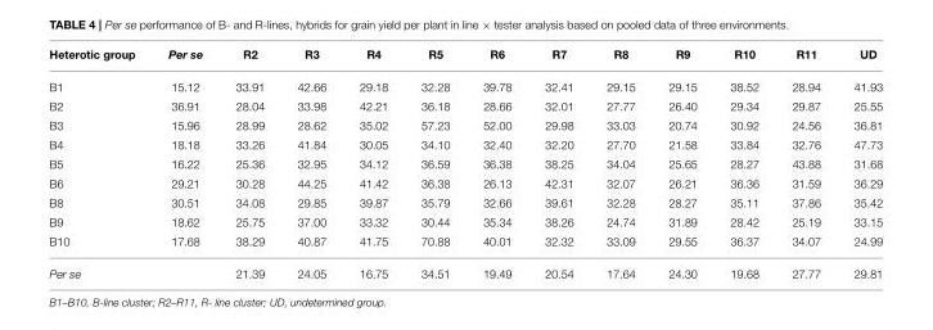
<table><thead><tr><td>Heterotic group</td><td>Per se</td><td>R2</td><td>R3</td><td>R4</td><td>R5</td><td>R6</td><td>R7</td><td>R8</td><td>R9</td><td>R10</td><td>R11</td><td>UD</td></tr></thead><tbody><tr><td>B1</td><td>15.12</td><td>33.91</td><td>42.66</td><td>29.18</td><td>32.28</td><td>39.78</td><td>32.41</td><td>29.15</td><td>29.15</td><td>38.52</td><td>28.94</td><td>41.93</td></tr><tr><td>B2</td><td>36.91</td><td>28.04</td><td>33.98</td><td>42.21</td><td>36.18</td><td>28.66</td><td>32.01</td><td>27.77</td><td>26.40</td><td>29.34</td><td>29.87</td><td>25.55</td></tr><tr><td>B3</td><td>15.96</td><td>28.99</td><td>28.62</td><td>35.02</td><td>57.23</td><td>52.00</td><td>29.98</td><td>33.03</td><td>20.74</td><td>30.92</td><td>24.56</td><td>36.81</td></tr><tr><td>B4</td><td>18.18</td><td>33.26</td><td>41.84</td><td>30.05</td><td>34.10</td><td>32.40</td><td>32.20</td><td>27.70</td><td>21.58</td><td>33.84</td><td>32.76</td><td>47.73</td></tr><tr><td>B5</td><td>16.22</td><td>25.36</td><td>32.95</td><td>34.12</td><td>36.59</td><td>36.38</td><td>38.25</td><td>34.04</td><td>25.65</td><td>28.27</td><td>43.88</td><td>31.68</td></tr><tr><td>B6</td><td>29.21</td><td>30.28</td><td>44.25</td><td>41.42</td><td>36.38</td><td>26.13</td><td>42.31</td><td>32.07</td><td>26.21</td><td>36.36</td><td>31.59</td><td>36.29</td></tr><tr><td>B8</td><td>30.51</td><td>34.08</td><td>29.85</td><td>39.87</td><td>35.79</td><td>32.66</td><td>39.61</td><td>32.28</td><td>28.27</td><td>35.11</td><td>37.86</td><td>35.42</td></tr><tr><td>B9</td><td>18.62</td><td>25.75</td><td>37.00</td><td>33.32</td><td>30.44</td><td>35.34</td><td>38.26</td><td>24.74</td><td>31.89</td><td>28.42</td><td>25.19</td><td>33.15</td></tr><tr><td>B10</td><td>17.68</td><td>38.29</td><td>40.87</td><td>41.75</td><td>70.88</td><td>40.01</td><td>32.32</td><td>33.09</td><td>29.55</td><td>36.37</td><td>34.07</td><td>24.99</td></tr><tr><td>Per se</td><td></td><td>21.39</td><td>24.05</td><td>16.75</td><td>34.51</td><td>19.49</td><td>20.54</td><td>17.64</td><td>24.30</td><td>19.68</td><td>27.77</td><td>29.81</td></tr></tbody></table>